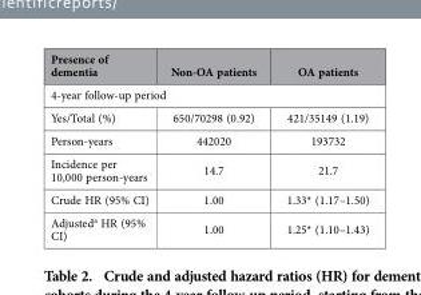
<table><thead><tr><td>Presence of dementia</td><td>Non-OA patients</td><td>OA patients</td></tr></thead><tbody><tr><td colspan="3">4-year follow-up period</td></tr><tr><td>Yes/Total (%)</td><td>650/70298 (0.92)</td><td>421/35149 (1.19)</td></tr><tr><td>Person-years</td><td>442020</td><td>193732</td></tr><tr><td>Incidence per 10,000 person-years</td><td>14.7</td><td>21.7</td></tr><tr><td>Crude HR (95% CI)</td><td>1.00</td><td>1.33* (1.17–1.50)</td></tr><tr><td>Adjusted<sup>a</sup> HR (95% CI)</td><td>1.00</td><td>1.25* (1.10–1.43)</td></tr></tbody></table>